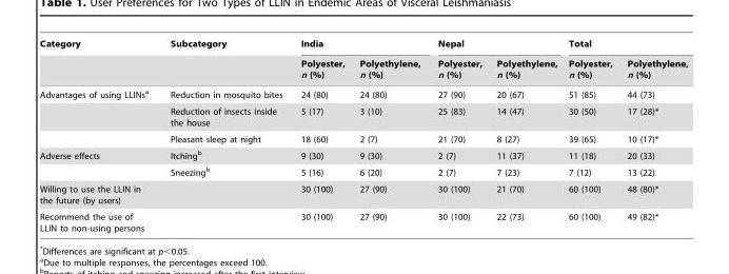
<table><thead><tr><td rowspan="2">Category</td><td rowspan="2">Subcategory</td><td colspan="2">India</td><td colspan="2">Nepal</td><td colspan="2">Total</td></tr><tr><td>Polyester, n (%)</td><td>Polyethylene, n (%)</td><td>Polyester, n (%)</td><td>Polyethylene, n (%)</td><td>Polyester, n (%)</td><td>Polyethylene, n (%)</td></tr></thead><tbody><tr><td rowspan="3">Advantages of using LLINs<sup>a</sup></td><td>Reduction in mosquito bites</td><td>24 (80)</td><td>24 (80)</td><td>27 (90)</td><td>20 (67)</td><td>51 (85)</td><td>44 (73)</td></tr><tr><td>Reduction of insects inside the house</td><td>5 (17)</td><td>3 (10)</td><td>25 (83)</td><td>14 (47)</td><td>30 (50)</td><td>17 (28)*</td></tr><tr><td>Pleasant sleep at night</td><td>18 (60)</td><td>2 (7)</td><td>21 (70)</td><td>8 (27)</td><td>39 (65)</td><td>10 (17)*</td></tr><tr><td rowspan="2">Adverse effects</td><td>Itching<sup>b</sup></td><td>9 (30)</td><td>9 (30)</td><td>2 (7)</td><td>11 (37)</td><td>11 (18)</td><td>20 (33)</td></tr><tr><td>Sneezing<sup>b</sup></td><td>5 (16)</td><td>6 (20)</td><td>2 (7)</td><td>7 (23)</td><td>7 (12)</td><td>13 (22)</td></tr><tr><td>Willing to use the LLIN in the future (by users)</td><td></td><td>30 (100)</td><td>27 (90)</td><td>30 (100)</td><td>21 (70)</td><td>60 (100)</td><td>48 (80)*</td></tr><tr><td>Recommend the use of LLIN to non-using persons</td><td></td><td>30 (100)</td><td>27 (90)</td><td>30 (100)</td><td>22 (73)</td><td>60 (100)</td><td>49 (82)*</td></tr></tbody></table>